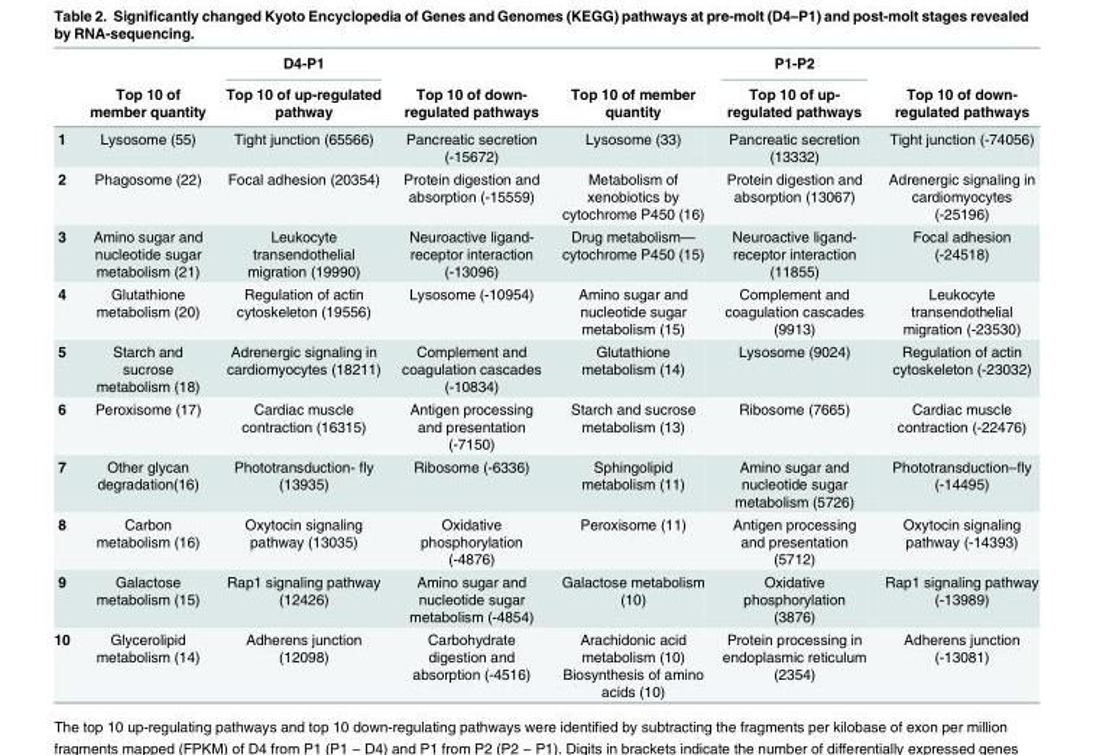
<table><thead><tr><td rowspan="2"></td><td rowspan="2">Top 10 of member quantity</td><td rowspan="2">D4-P1 Top 10 of up-regulated pathway</td><td rowspan="2">Top 10 of down- regulated pathways</td><td rowspan="2">Top 10 of member quantity</td><td rowspan="2">P1-P2 Top 10 of up- regulated pathways</td><td rowspan="2">Top 10 of down- regulated pathways</td></tr><tr></tr></thead><tbody><tr><td>1</td><td>Lysosome (55)</td><td>Tight junction (65566)</td><td>Pancreatic secretion (-15672)</td><td>Lysosome (33)</td><td>Pancreatic secretion (13332)</td><td>Tight junction (-74056)</td></tr><tr><td>2</td><td>Phagosome (22)</td><td>Focal adhesion (20354)</td><td>Protein digestion and absorption (-15559)</td><td>Metabolism of xenobiotics by cytochrome P450 (16)</td><td>Protein digestion and absorption (13067)</td><td>Adrenergic signaling in cardiomyocytes (-25196)</td></tr><tr><td>3</td><td>Amino sugar and nucleotide sugar metabolism (21)</td><td>Leukocyte transendothelial migration (19990)</td><td>Neuroactive ligand- receptor interaction (-13096)</td><td>Drug metabolism— cytochrome P450 (15)</td><td>Neuroactive ligand- receptor interaction (11855)</td><td>Focal adhesion (-24518)</td></tr><tr><td>4</td><td>Glutathione metabolism (20)</td><td>Regulation of actin cytoskeleton (19556)</td><td>Lysosome (-10954)</td><td>Amino sugar and nucleotide sugar metabolism (15)</td><td>Complement and coagulation cascades (9913)</td><td>Leukocyte transendothelial migration (-23530)</td></tr><tr><td>5</td><td>Starch and sucrose metabolism (18)</td><td>Adrenergic signaling in cardiomyocytes (18211)</td><td>Complement and coagulation cascades (-10834)</td><td>Glutathione metabolism (14)</td><td>Lysosome (9024)</td><td>Regulation of actin cytoskeleton (-23032)</td></tr><tr><td>6</td><td>Peroxisome (17)</td><td>Cardiac muscle contraction (16315)</td><td>Antigen processing and presentation (-7150)</td><td>Starch and sucrose metabolism (13)</td><td>Ribosome (7665)</td><td>Cardiac muscle contraction (-22476)</td></tr><tr><td>7</td><td>Other glycan degradation(16)</td><td>Phototransduction- fly (13935)</td><td>Ribosome (-6336)</td><td>Sphingolipid metabolism (11)</td><td>Amino sugar and nucleotide sugar metabolism (5726)</td><td>Phototransduction–fly (-14495)</td></tr><tr><td>8</td><td>Carbon metabolism (16)</td><td>Oxytocin signaling pathway (13035)</td><td>Oxidative phosphorylation (-4876)</td><td>Peroxisome (11)</td><td>Antigen processing and presentation (5712)</td><td>Oxytocin signaling pathway (-14393)</td></tr><tr><td>9</td><td>Galactose metabolism (15)</td><td>Rap1 signaling pathway (12426)</td><td>Amino sugar and nucleotide sugar metabolism (-4854)</td><td>Galactose metabolism (10)</td><td>Oxidative phosphorylation (3876)</td><td>Rap1 signaling pathway (-13989)</td></tr><tr><td>10</td><td>Glycerolipid metabolism (14)</td><td>Adherens junction (12098)</td><td>Carbohydrate digestion and absorption (-4516)</td><td>Arachidonic acid metabolism (10) Biosynthesis of amino acids (10)</td><td>Protein processing in endoplasmic reticulum (2354)</td><td>Adherens junction (-13081)</td></tr></tbody></table>